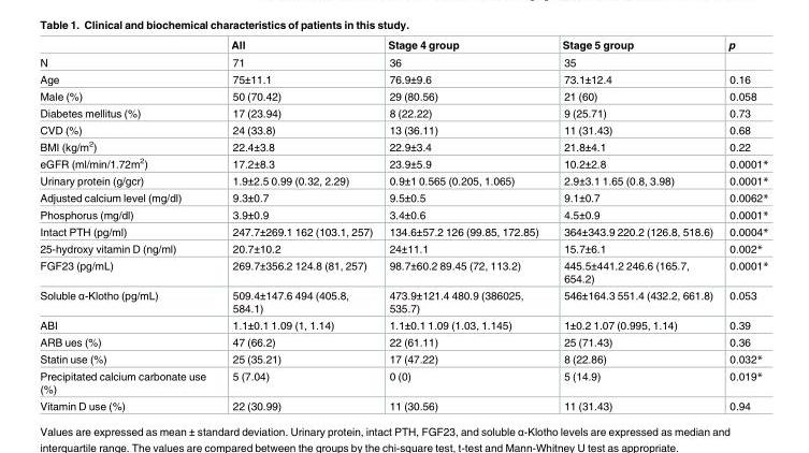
<table><thead><tr><td></td><td>All</td><td>Stage 4 group</td><td>Stage 5 group</td><td>p</td></tr></thead><tbody><tr><td>N</td><td>71</td><td>36</td><td>35</td><td></td></tr><tr><td>Age</td><td>75±11.1</td><td>76.9±9.6</td><td>73.1±12.4</td><td>0.16</td></tr><tr><td>Male (%)</td><td>50 (70.42)</td><td>29 (80.56)</td><td>21 (60)</td><td>0.058</td></tr><tr><td>Diabetes mellitus (%)</td><td>17 (23.94)</td><td>8 (22.22)</td><td>9 (25.71)</td><td>0.73</td></tr><tr><td>CVD (%)</td><td>24 (33.8)</td><td>13 (36.11)</td><td>11 (31.43)</td><td>0.68</td></tr><tr><td>BMI (kg/m<sup>2</sup>)</td><td>22.4±3.8</td><td>22.9±3.4</td><td>21.8±4.1</td><td>0.22</td></tr><tr><td>eGFR (ml/min/1.72m<sup>2</sup>)</td><td>17.2±8.3</td><td>23.9±5.9</td><td>10.2±2.8</td><td>0.0001*</td></tr><tr><td>Urinary protein (g/gcr)</td><td>1.9±2.5 0.99 (0.32, 2.29)</td><td>0.9±1 0.565 (0.205, 1.065)</td><td>2.9±3.1 1.65 (0.8, 3.98)</td><td>0.0001*</td></tr><tr><td>Adjusted calcium level (mg/dl)</td><td>9.3±0.7</td><td>9.5±0.5</td><td>9.1±0.7</td><td>0.0062*</td></tr><tr><td>Phosphorus (mg/dl)</td><td>3.9±0.9</td><td>3.4±0.6</td><td>4.5±0.9</td><td>0.0001*</td></tr><tr><td>Intact PTH (pg/ml)</td><td>247.7±269.1 162 (103.1, 257)</td><td>134.6±57.2 126 (99.85, 172.85)</td><td>364±343.9 220.2 (126.8, 518.6)</td><td>0.0004*</td></tr><tr><td>25-hydroxy vitamin D (ng/ml)</td><td>20.7±10.2</td><td>24±11.1</td><td>15.7±6.1</td><td>0.002*</td></tr><tr><td>FGF23 (pg/mL)</td><td>269.7±356.2 124.8 (81, 257)</td><td>98.7±60.2 89.45 (72, 113.2)</td><td>445.5±441.2 246.6 (165.7, 654.2)</td><td>0.0001*</td></tr><tr><td>Soluble α-Klotho (pg/mL)</td><td>509.4±147.6 494 (405.8, 584.1)</td><td>473.9±121.4 480.9 (386025, 535.7)</td><td>546±164.3 551.4 (432.2, 661.8)</td><td>0.053</td></tr><tr><td>ABI</td><td>1.1±0.1 1.09 (1, 1.14)</td><td>1.1±0.1 1.09 (1.03, 1.145)</td><td>1±0.2 1.07 (0.995, 1.14)</td><td>0.39</td></tr><tr><td>ARB ues (%)</td><td>47 (66.2)</td><td>22 (61.11)</td><td>25 (71.43)</td><td>0.36</td></tr><tr><td>Statin use (%)</td><td>25 (35.21)</td><td>17 (47.22)</td><td>8 (22.86)</td><td>0.032*</td></tr><tr><td>Precipitated calcium carbonate use (%)</td><td>5 (7.04)</td><td>0 (0)</td><td>5 (14.9)</td><td>0.019*</td></tr><tr><td>Vitamin D use (%)</td><td>22 (30.99)</td><td>11 (30.56)</td><td>11 (31.43)</td><td>0.94</td></tr></tbody></table>